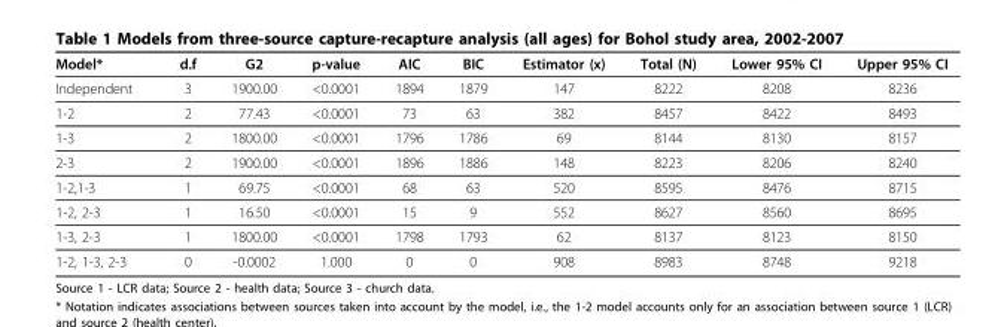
<table><thead><tr><td>Model*</td><td>d.f</td><td>G2</td><td>p-value</td><td>AIC</td><td>BIC</td><td>Estimator (x)</td><td>Total (N)</td><td>Lower 95% CI</td><td>Upper 95% CI</td></tr></thead><tbody><tr><td>Independent</td><td>3</td><td>1900.00</td><td>&lt;0.0001</td><td>1894</td><td>1879</td><td>147</td><td>8222</td><td>8208</td><td>8236</td></tr><tr><td>1-2</td><td>2</td><td>77.43</td><td>&lt;0.0001</td><td>73</td><td>63</td><td>382</td><td>8457</td><td>8422</td><td>8493</td></tr><tr><td>1-3</td><td>2</td><td>1800.00</td><td>&lt;0.0001</td><td>1796</td><td>1786</td><td>69</td><td>8144</td><td>8130</td><td>8157</td></tr><tr><td>2-3</td><td>2</td><td>1900.00</td><td>&lt;0.0001</td><td>1896</td><td>1886</td><td>148</td><td>8223</td><td>8206</td><td>8240</td></tr><tr><td>1-2,1-3</td><td>1</td><td>69.75</td><td>&lt;0.0001</td><td>68</td><td>63</td><td>520</td><td>8595</td><td>8476</td><td>8715</td></tr><tr><td>1-2, 2-3</td><td>1</td><td>16.50</td><td>&lt;0.0001</td><td>15</td><td>9</td><td>552</td><td>8627</td><td>8560</td><td>8695</td></tr><tr><td>1-3, 2-3</td><td>1</td><td>1800.00</td><td>&lt;0.0001</td><td>1798</td><td>1793</td><td>62</td><td>8137</td><td>8123</td><td>8150</td></tr><tr><td>1-2, 1-3, 2-3</td><td>0</td><td>-0.0002</td><td>1.000</td><td>0</td><td>0</td><td>908</td><td>8983</td><td>8748</td><td>9218</td></tr></tbody></table>